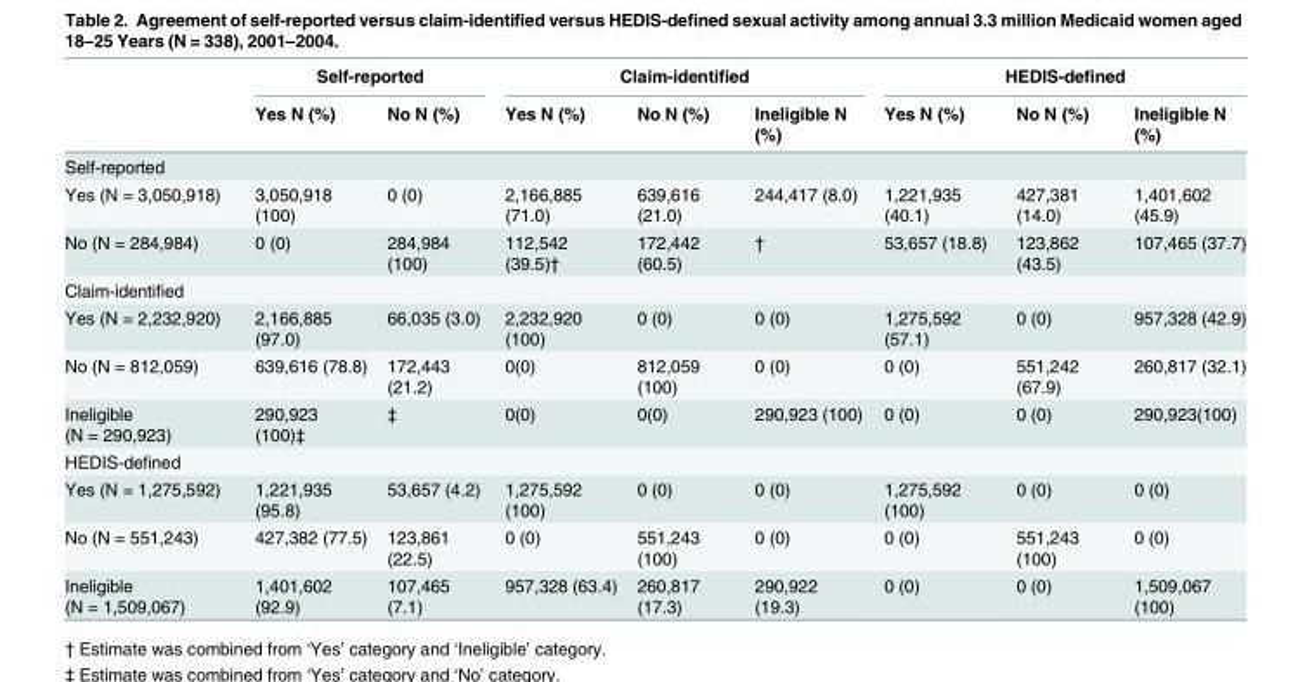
<table><thead><tr><td rowspan="2"></td><td colspan="2">Self-reported</td><td colspan="3">Claim-identified</td><td colspan="3">HEDIS-defined</td></tr><tr><td>Yes N (%)</td><td>No N (%)</td><td>Yes N (%)</td><td>No N (%)</td><td>Ineligible N (%)</td><td>Yes N (%)</td><td>No N (%)</td><td>Ineligible N (%)</td></tr></thead><tbody><tr><td colspan="9">Self-reported</td></tr><tr><td>Yes (N = 3,050,918)</td><td>3,050,918 (100)</td><td>0 (0)</td><td>2,166,885 (71.0)</td><td>639,616 (21.0)</td><td>244,417 (8.0)</td><td>1,221,935 (40.1)</td><td>427,381 (14.0)</td><td>1,401,602 (45.9)</td></tr><tr><td>No (N = 284,984)</td><td>0 (0)</td><td>284,984 (100)</td><td>112,542 (39.5)†</td><td>172,442 (60.5)</td><td>†</td><td>53,657 (18.8)</td><td>123,862 (43.5)</td><td>107,465 (37.7)</td></tr><tr><td colspan="9">Claim-identified</td></tr><tr><td>Yes (N = 2,232,920)</td><td>2,166,885 (97.0)</td><td>66,035 (3.0)</td><td>2,232,920 (100)</td><td>0 (0)</td><td>0 (0)</td><td>1,275,592 (57.1)</td><td>0 (0)</td><td>957,328 (42.9)</td></tr><tr><td>No (N = 812,059)</td><td>639,616 (78.8)</td><td>172,443 (21.2)</td><td>0(0)</td><td>812,059 (100)</td><td>0 (0)</td><td>0 (0)</td><td>551,242 (67.9)</td><td>260,817 (32.1)</td></tr><tr><td>Ineligible (N = 290,923)</td><td>290,923 (100)‡</td><td>‡</td><td>0(0)</td><td>0(0)</td><td>290,923 (100)</td><td>0 (0)</td><td>0 (0)</td><td>290,923(100)</td></tr><tr><td colspan="9">HEDIS-defined</td></tr><tr><td>Yes (N = 1,275,592)</td><td>1,221,935 (95.8)</td><td>53,657 (4.2)</td><td>1,275,592 (100)</td><td>0 (0)</td><td>0 (0)</td><td>1,275,592 (100)</td><td>0 (0)</td><td>0 (0)</td></tr><tr><td>No (N = 551,243)</td><td>427,382 (77.5)</td><td>123,861 (22.5)</td><td>0 (0)</td><td>551,243 (100)</td><td>0 (0)</td><td>0 (0)</td><td>551,243 (100)</td><td>0 (0)</td></tr><tr><td>Ineligible (N = 1,509,067)</td><td>1,401,602 (92.9)</td><td>107,465 (7.1)</td><td>957,328 (63.4)</td><td>260,817 (17.3)</td><td>290,922 (19.3)</td><td>0 (0)</td><td>0 (0)</td><td>1,509,067 (100)</td></tr></tbody></table>